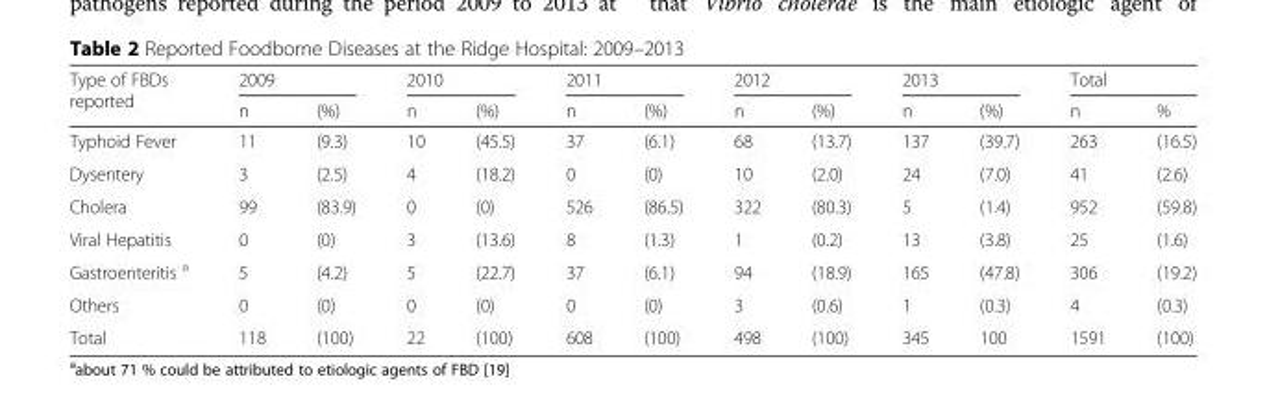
<table><thead><tr><td rowspan="2">Type of FBDs reported</td><td colspan="2">2009</td><td colspan="2">2010</td><td colspan="2">2011</td><td colspan="2">2012</td><td colspan="2">2013</td><td colspan="2">Total</td></tr><tr><td>n</td><td>(%)</td><td>n</td><td>(%)</td><td>n</td><td>(%)</td><td>n</td><td>(%)</td><td>n</td><td>(%)</td><td>n</td><td>%</td></tr></thead><tbody><tr><td>Typhoid Fever</td><td>11</td><td>(9.3)</td><td>10</td><td>(45.5)</td><td>37</td><td>(6.1)</td><td>68</td><td>(13.7)</td><td>137</td><td>(39.7)</td><td>263</td><td>(16.5)</td></tr><tr><td>Dysentery</td><td>3</td><td>(2.5)</td><td>4</td><td>(18.2)</td><td>0</td><td>(0)</td><td>10</td><td>(2.0)</td><td>24</td><td>(7.0)</td><td>41</td><td>(2.6)</td></tr><tr><td>Cholera</td><td>99</td><td>(83.9)</td><td>0</td><td>(0)</td><td>526</td><td>(86.5)</td><td>322</td><td>(80.3)</td><td>5</td><td>(1.4)</td><td>952</td><td>(59.8)</td></tr><tr><td>Viral Hepatitis</td><td>0</td><td>(0)</td><td>3</td><td>(13.6)</td><td>8</td><td>(1.3)</td><td>1</td><td>(0.2)</td><td>13</td><td>(3.8)</td><td>25</td><td>(1.6)</td></tr><tr><td>Gastroenteritis <sup>a</sup></td><td>5</td><td>(4.2)</td><td>5</td><td>(22.7)</td><td>37</td><td>(6.1)</td><td>94</td><td>(18.9)</td><td>165</td><td>(47.8)</td><td>306</td><td>(19.2)</td></tr><tr><td>Others</td><td>0</td><td>(0)</td><td>0</td><td>(0)</td><td>0</td><td>(0)</td><td>3</td><td>(0.6)</td><td>1</td><td>(0.3)</td><td>4</td><td>(0.3)</td></tr><tr><td>Total</td><td>118</td><td>(100)</td><td>22</td><td>(100)</td><td>608</td><td>(100)</td><td>498</td><td>(100)</td><td>345</td><td>100</td><td>1591</td><td>(100)</td></tr></tbody></table>